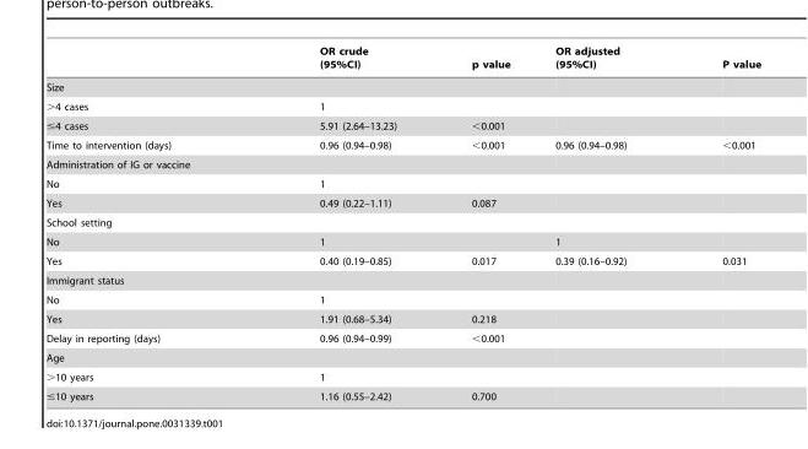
<table><thead><tr><td></td><td>OR crude (95%CI)</td><td>p value</td><td>OR adjusted (95%CI)</td><td>P value</td></tr></thead><tbody><tr><td colspan="5">Size</td></tr><tr><td>&gt;4 cases</td><td>1</td><td></td><td></td><td></td></tr><tr><td>≤4 cases</td><td>5.91 (2.64–13.23)</td><td>&lt;0.001</td><td></td><td></td></tr><tr><td>Time to intervention (days)</td><td>0.96 (0.94–0.98)</td><td>&lt;0.001</td><td>0.96 (0.94–0.98)</td><td>&lt;0.001</td></tr><tr><td colspan="5">Administration of IG or vaccine</td></tr><tr><td>No</td><td>1</td><td></td><td></td><td></td></tr><tr><td>Yes</td><td>0.49 (0.22–1.11)</td><td>0.087</td><td></td><td></td></tr><tr><td colspan="5">School setting</td></tr><tr><td>No</td><td>1</td><td></td><td>1</td><td></td></tr><tr><td>Yes</td><td>0.40 (0.19–0.85)</td><td>0.017</td><td>0.39 (0.16–0.92)</td><td>0.031</td></tr><tr><td colspan="5">Immigrant status</td></tr><tr><td>No</td><td>1</td><td></td><td></td><td></td></tr><tr><td>Yes</td><td>1.91 (0.68–5.34)</td><td>0.218</td><td></td><td></td></tr><tr><td>Delay in reporting (days)</td><td>0.96 (0.94–0.99)</td><td>&lt;0.001</td><td></td><td></td></tr><tr><td colspan="5">Age</td></tr><tr><td>&gt;10 years</td><td>1</td><td></td><td></td><td></td></tr><tr><td>≤10 years</td><td>1.16 (0.55–2.42)</td><td>0.700</td><td></td><td></td></tr></tbody></table>